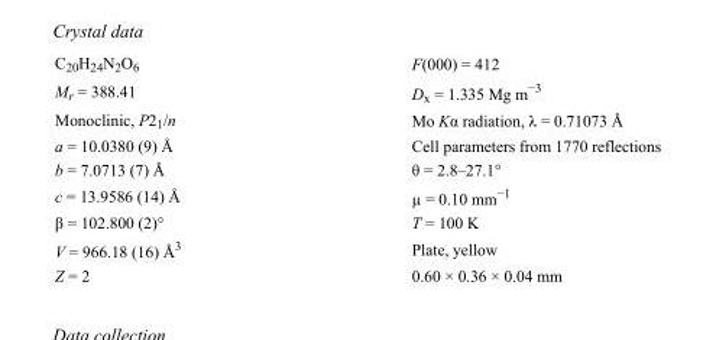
<table><tbody><tr><td>C<sub>20</sub>H<sub>24</sub>N<sub>2</sub>O<sub>6</sub></td><td>F(000) = 412</td></tr><tr><td>M<sub>r</sub> = 388.41</td><td>D<sub>x</sub> = 1.335 Mg m<sup>−3</sup></td></tr><tr><td>Monoclinic, P2<sub>1</sub>/n</td><td>Mo Kα radiation, λ = 0.71073 Å</td></tr><tr><td>a = 10.0380 (9) Å</td><td>Cell parameters from 1770 reflections</td></tr><tr><td>b = 7.0713 (7) Å</td><td>θ = 2.8–27.1°</td></tr><tr><td>c = 13.9586 (14) Å</td><td>µ = 0.10 mm<sup>−1</sup></td></tr><tr><td>β = 102.800 (2)°</td><td>T = 100 K</td></tr><tr><td>V = 966.18 (16) Å<sup>3</sup></td><td>Plate, yellow</td></tr><tr><td>Z = 2</td><td>0.60 × 0.36 × 0.04 mm</td></tr></tbody></table>